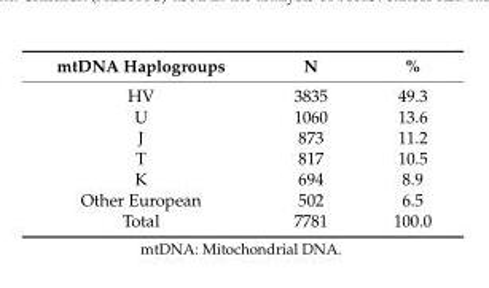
<table><thead><tr><td>mtDNA Haplogroups</td><td>N</td><td>%</td></tr></thead><tbody><tr><td>HV</td><td>3835</td><td>49.3</td></tr><tr><td>U</td><td>1060</td><td>13.6</td></tr><tr><td>J</td><td>873</td><td>11.2</td></tr><tr><td>T</td><td>817</td><td>10.5</td></tr><tr><td>K</td><td>694</td><td>8.9</td></tr><tr><td>Other European</td><td>502</td><td>6.5</td></tr><tr><td>Total</td><td>7781</td><td>100.0</td></tr></tbody></table>